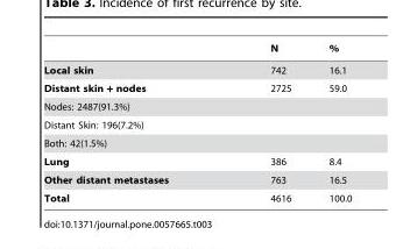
<table><thead><tr><td></td><td>N</td><td>%</td></tr></thead><tbody><tr><td>Local skin</td><td>742</td><td>16.1</td></tr><tr><td>Distant skin + nodes</td><td>2725</td><td>59.0</td></tr><tr><td colspan="3">Nodes: 2487(91.3%)</td></tr><tr><td colspan="3">Distant Skin: 196(7.2%)</td></tr><tr><td colspan="3">Both: 42(1.5%)</td></tr><tr><td>Lung</td><td>386</td><td>8.4</td></tr><tr><td>Other distant metastases</td><td>763</td><td>16.5</td></tr><tr><td>Total</td><td>4616</td><td>100.0</td></tr></tbody></table>